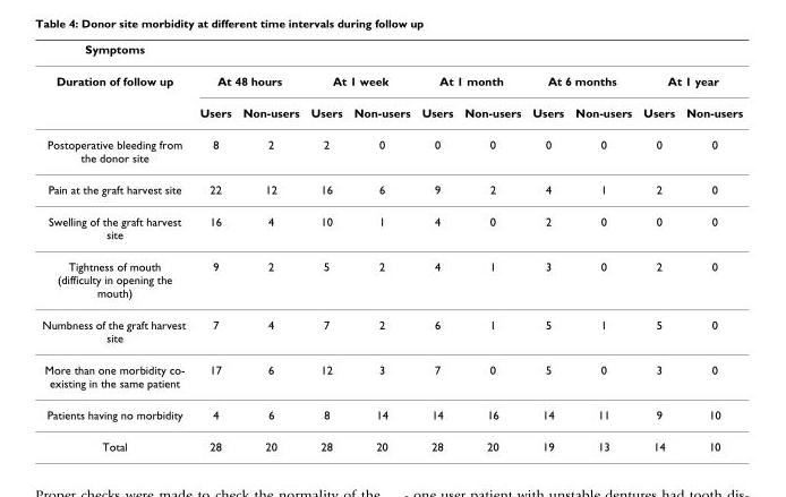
<table><thead><tr><td>Symptoms</td><td></td><td></td><td></td><td></td><td></td><td></td><td></td><td></td><td></td><td></td></tr></thead><tbody><tr><td rowspan="2">Duration of follow up</td><td colspan="2">At 48 hours</td><td colspan="2">At 1 week</td><td colspan="2">At 1 month</td><td colspan="2">At 6 months</td><td colspan="2">At 1 year</td></tr><tr><td>Users</td><td>Non-users</td><td>Users</td><td>Non-users</td><td>Users</td><td>Non-users</td><td>Users</td><td>Non-users</td><td>Users</td><td>Non-users</td></tr><tr><td>Postoperative bleeding from the donor site</td><td>8</td><td>2</td><td>2</td><td>0</td><td>0</td><td>0</td><td>0</td><td>0</td><td>0</td><td>0</td></tr><tr><td>Pain at the graft harvest site</td><td>22</td><td>12</td><td>16</td><td>6</td><td>9</td><td>2</td><td>4</td><td>1</td><td>2</td><td>0</td></tr><tr><td>Swelling of the graft harvest site</td><td>16</td><td>4</td><td>10</td><td>1</td><td>4</td><td>0</td><td>2</td><td>0</td><td>0</td><td>0</td></tr><tr><td>Tightness of mouth (difficulty in opening the mouth)</td><td>9</td><td>2</td><td>5</td><td>2</td><td>4</td><td>1</td><td>3</td><td>0</td><td>2</td><td>0</td></tr><tr><td>Numbness of the graft harvest site</td><td>7</td><td>4</td><td>7</td><td>2</td><td>6</td><td>1</td><td>5</td><td>1</td><td>5</td><td>0</td></tr><tr><td>More than one morbidity co- existing in the same patient</td><td>17</td><td>6</td><td>12</td><td>3</td><td>7</td><td>0</td><td>5</td><td>0</td><td>3</td><td>0</td></tr><tr><td>Patients having no morbidity</td><td>4</td><td>6</td><td>8</td><td>14</td><td>14</td><td>16</td><td>14</td><td>11</td><td>9</td><td>10</td></tr><tr><td>Total</td><td>28</td><td>20</td><td>28</td><td>20</td><td>28</td><td>20</td><td>19</td><td>13</td><td>14</td><td>10</td></tr></tbody></table>